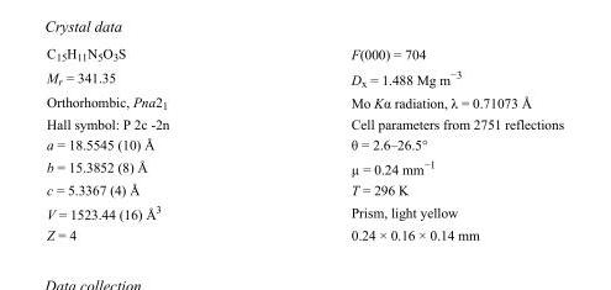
<table><tbody><tr><td>C<sub>15</sub>H<sub>11</sub>N<sub>5</sub>O<sub>3</sub>S</td><td>F(000) = 704</td></tr><tr><td>M<sub>r</sub> = 341.35</td><td>D<sub>x</sub> = 1.488 Mg m<sup>−3</sup></td></tr><tr><td>Orthorhombic, Pna2<sub>1</sub></td><td>Mo Kα radiation, λ = 0.71073 Å</td></tr><tr><td>Hall symbol: P 2c -2n</td><td>Cell parameters from 2751 reflections</td></tr><tr><td>a = 18.5545 (10) Å</td><td>θ = 2.6–26.5°</td></tr><tr><td>b = 15.3852 (8) Å</td><td>µ = 0.24 mm<sup>−1</sup></td></tr><tr><td>c = 5.3367 (4) Å</td><td>T = 296 K</td></tr><tr><td>V = 1523.44 (16) Å<sup>3</sup></td><td>Prism, light yellow</td></tr><tr><td>Z = 4</td><td>0.24 × 0.16 × 0.14 mm</td></tr></tbody></table>